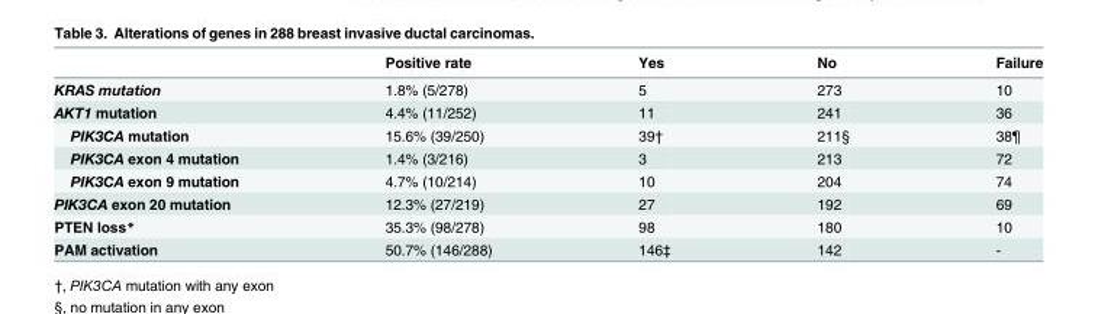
<table><thead><tr><td></td><td>Positive rate</td><td>Yes</td><td>No</td><td>Failure</td></tr></thead><tbody><tr><td>KRAS mutation</td><td>1.8% (5/278)</td><td>5</td><td>273</td><td>10</td></tr><tr><td>AKT1 mutation</td><td>4.4% (11/252)</td><td>11</td><td>241</td><td>36</td></tr><tr><td>PIK3CA mutation</td><td>15.6% (39/250)</td><td>39†</td><td>211§</td><td>38¶</td></tr><tr><td>PIK3CA exon 4 mutation</td><td>1.4% (3/216)</td><td>3</td><td>213</td><td>72</td></tr><tr><td>PIK3CA exon 9 mutation</td><td>4.7% (10/214)</td><td>10</td><td>204</td><td>74</td></tr><tr><td>PIK3CA exon 20 mutation</td><td>12.3% (27/219)</td><td>27</td><td>192</td><td>69</td></tr><tr><td>PTEN loss*</td><td>35.3% (98/278)</td><td>98</td><td>180</td><td>10</td></tr><tr><td>PAM activation</td><td>50.7% (146/288)</td><td>146‡</td><td>142</td><td>-</td></tr></tbody></table>